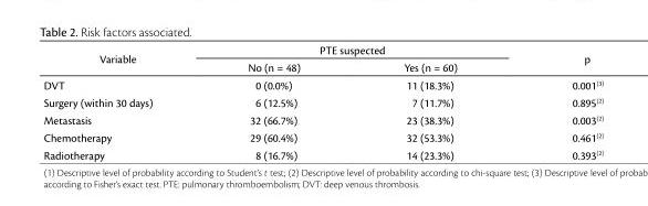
<table><thead><tr><td rowspan="2">Variable</td><td colspan="2">PTE suspected</td><td rowspan="2">p</td></tr><tr><td>No (n = 48)</td><td>Yes (n = 60)</td></tr></thead><tbody><tr><td>DVT</td><td>0 (0.0%)</td><td>11 (18.3%)</td><td>0.001(3)</td></tr><tr><td>Surgery (within 30 days)</td><td>6 (12.5%)</td><td>7 (11.7%)</td><td>0.895(2)</td></tr><tr><td>Metastasis</td><td>32 (66.7%)</td><td>23 (38.3%)</td><td>0.003(2)</td></tr><tr><td>Chemotherapy</td><td>29 (60.4%)</td><td>32 (53.3%)</td><td>0.461(2)</td></tr><tr><td>Radiotherapy</td><td>8 (16.7%)</td><td>14 (23.3%)</td><td>0.393(2)</td></tr></tbody></table>